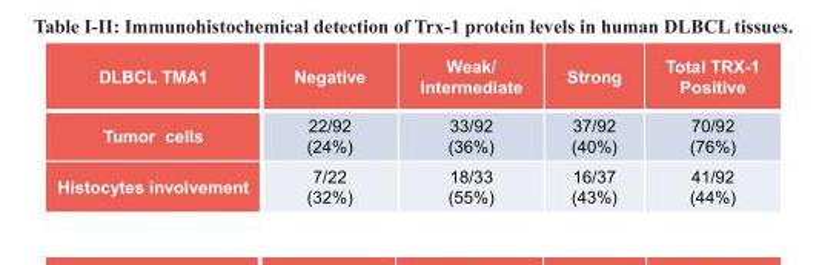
<table><thead><tr><td>DLBCL TMA1</td><td>Negative</td><td>Weak/ Intermediate</td><td>Strong</td><td>Total TRX-1 Positive</td></tr></thead><tbody><tr><td>Tumor cells</td><td>22/92 (24%)</td><td>33/92 (36%)</td><td>37/92 (40%)</td><td>70/92 (76%)</td></tr><tr><td>Histocytes involvement</td><td>7/22 (32%)</td><td>18/33 (55%)</td><td>16/37 (43%)</td><td>41/92 (44%)</td></tr></tbody></table>